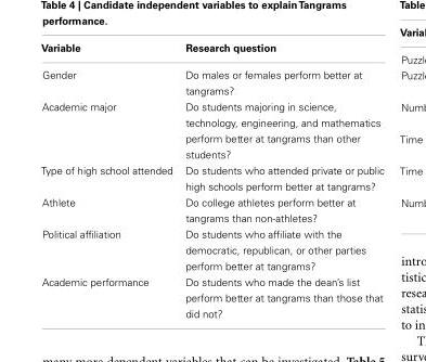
<table><thead><tr><td>Variable</td><td>Research question</td></tr></thead><tbody><tr><td>Gender</td><td>Do males or females perform better at tangrams?</td></tr><tr><td>Academic major</td><td>Do students majoring in science, technology, engineering, and mathematics perform better at tangrams than other students?</td></tr><tr><td>Type of high school attended</td><td>Do students who attended private or public high schools perform better at tangrams?</td></tr><tr><td>Athlete</td><td>Do college athletes perform better at tangrams than non-athletes?</td></tr><tr><td>Political affiliation</td><td>Do students who affiliate with the democratic, republican, or other parties perform better at tangrams?</td></tr><tr><td>Academic performance</td><td>Do students who made the dean’s list perform better at tangrams than those that did not?</td></tr></tbody></table>